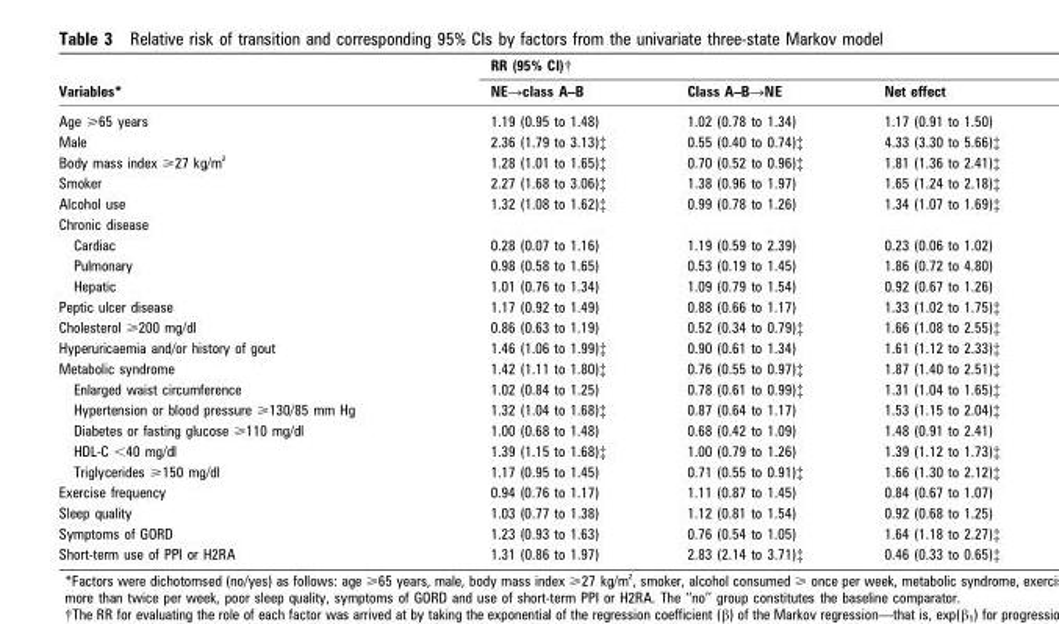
<table><thead><tr><td rowspan="2">Variables*</td><td colspan="3">RR (95% CI)†</td></tr><tr><td>NE→class A–B</td><td>Class A–B→NE</td><td>Net effect</td></tr></thead><tbody><tr><td>Age &gt;65 years</td><td>1.19 (0.95 to 1.48)</td><td>1.02 (0.78 to 1.34)</td><td>1.17 (0.91 to 1.50)</td></tr><tr><td>Male</td><td>2.36 (1.79 to 3.13)‡</td><td>0.55 (0.40 to 0.74)‡</td><td>4.33 (3.30 to 5.66)‡</td></tr><tr><td>Body mass index &gt;27 kg/m 2</td><td>1.28 (1.01 to 1.65)‡</td><td>0.70 (0.52 to 0.96)‡</td><td>1.81 (1.36 to 2.41)‡</td></tr><tr><td>Smoker</td><td>2.27 (1.68 to 3.06)‡</td><td>1.38 (0.96 to 1.97)</td><td>1.65 (1.24 to 2.18)‡</td></tr><tr><td>Alcohol use</td><td>1.32 (1.08 to 1.62)‡</td><td>0.99 (0.78 to 1.26)</td><td>1.34 (1.07 to 1.69)‡</td></tr><tr><td colspan="4">Chronic disease</td></tr><tr><td>Cardiac</td><td>0.28 (0.07 to 1.16)</td><td>1.19 (0.59 to 2.39)</td><td>0.23 (0.06 to 1.02)</td></tr><tr><td>Pulmonary</td><td>0.98 (0.58 to 1.65)</td><td>0.53 (0.19 to 1.45)</td><td>1.86 (0.72 to 4.80)</td></tr><tr><td>Hepatic</td><td>1.01 (0.76 to 1.34)</td><td>1.09 (0.79 to 1.54)</td><td>0.92 (0.67 to 1.26)</td></tr><tr><td>Peptic ulcer disease</td><td>1.17 (0.92 to 1.49)</td><td>0.88 (0.66 to 1.17)</td><td>1.33 (1.02 to 1.75)‡</td></tr><tr><td>Cholesterol &gt;200 mg/dl</td><td>0.86 (0.63 to 1.19)</td><td>0.52 (0.34 to 0.79)‡</td><td>1.66 (1.08 to 2.55)‡</td></tr><tr><td>Hyperuricaemia and/or history of gout</td><td>1.46 (1.06 to 1.99)‡</td><td>0.90 (0.61 to 1.34)</td><td>1.61 (1.12 to 2.33)‡</td></tr><tr><td>Metabolic syndrome</td><td>1.42 (1.11 to 1.80)‡</td><td>0.76 (0.55 to 0.97)‡</td><td>1.87 (1.40 to 2.51)‡</td></tr><tr><td>Enlarged waist circumference</td><td>1.02 (0.84 to 1.25)</td><td>0.78 (0.61 to 0.99)‡</td><td>1.31 (1.04 to 1.65)‡</td></tr><tr><td>Hypertension or blood pressure &gt;130/85 mm Hg</td><td>1.32 (1.04 to 1.68)‡</td><td>0.87 (0.64 to 1.17)</td><td>1.53 (1.15 to 2.04)‡</td></tr><tr><td>Diabetes or fasting glucose &gt;110 mg/dl</td><td>1.00 (0.68 to 1.48)</td><td>0.68 (0.42 to 1.09)</td><td>1.48 (0.91 to 2.41)</td></tr><tr><td>HDL-C &lt;40 mg/dl</td><td>1.39 (1.15 to 1.68)‡</td><td>1.00 (0.79 to 1.26)</td><td>1.39 (1.12 to 1.73)‡</td></tr><tr><td>Triglycerides &gt;150 mg/dl</td><td>1.17 (0.95 to 1.45)</td><td>0.71 (0.55 to 0.91)‡</td><td>1.66 (1.30 to 2.12)‡</td></tr><tr><td>Exercise frequency</td><td>0.94 (0.76 to 1.17)</td><td>1.11 (0.87 to 1.45)</td><td>0.84 (0.67 to 1.07)</td></tr><tr><td>Sleep quality</td><td>1.03 (0.77 to 1.38)</td><td>1.12 (0.81 to 1.54)</td><td>0.92 (0.68 to 1.25)</td></tr><tr><td>Symptoms of GORD</td><td>1.23 (0.93 to 1.63)</td><td>0.76 (0.54 to 1.05)</td><td>1.64 (1.18 to 2.27)‡</td></tr><tr><td>Short-term use of PPI or H2RA</td><td>1.31 (0.86 to 1.97)</td><td>2.83 (2.14 to 3.71)‡</td><td>0.46 (0.33 to 0.65)‡</td></tr></tbody></table>